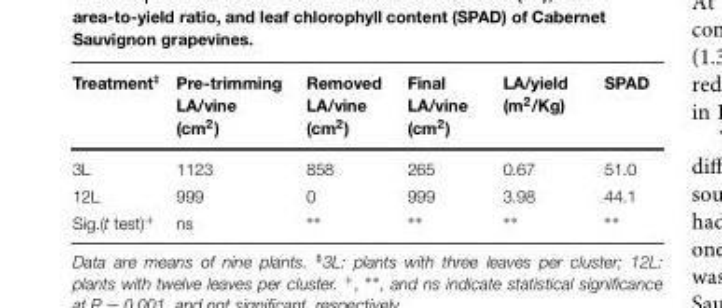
<table><thead><tr><td>Treatment<sup>‡</sup></td><td>Pre-trimming LA/vine (cm<sup>2</sup>)</td><td>Removed LA/vine (cm<sup>2</sup>)</td><td>Final LA/vine (cm<sup>2</sup>)</td><td>LA/yield (m<sup>2</sup>/Kg)</td><td>SPAD</td></tr></thead><tbody><tr><td>3L</td><td>1123</td><td>858</td><td>265</td><td>0.67</td><td>51.0</td></tr><tr><td>12L</td><td>999</td><td>0</td><td>999</td><td>3.98</td><td>44.1</td></tr><tr><td>Sig.(t test)<sup>+</sup></td><td>ns</td><td>∗∗</td><td>∗∗</td><td>∗∗</td><td>∗∗</td></tr></tbody></table>